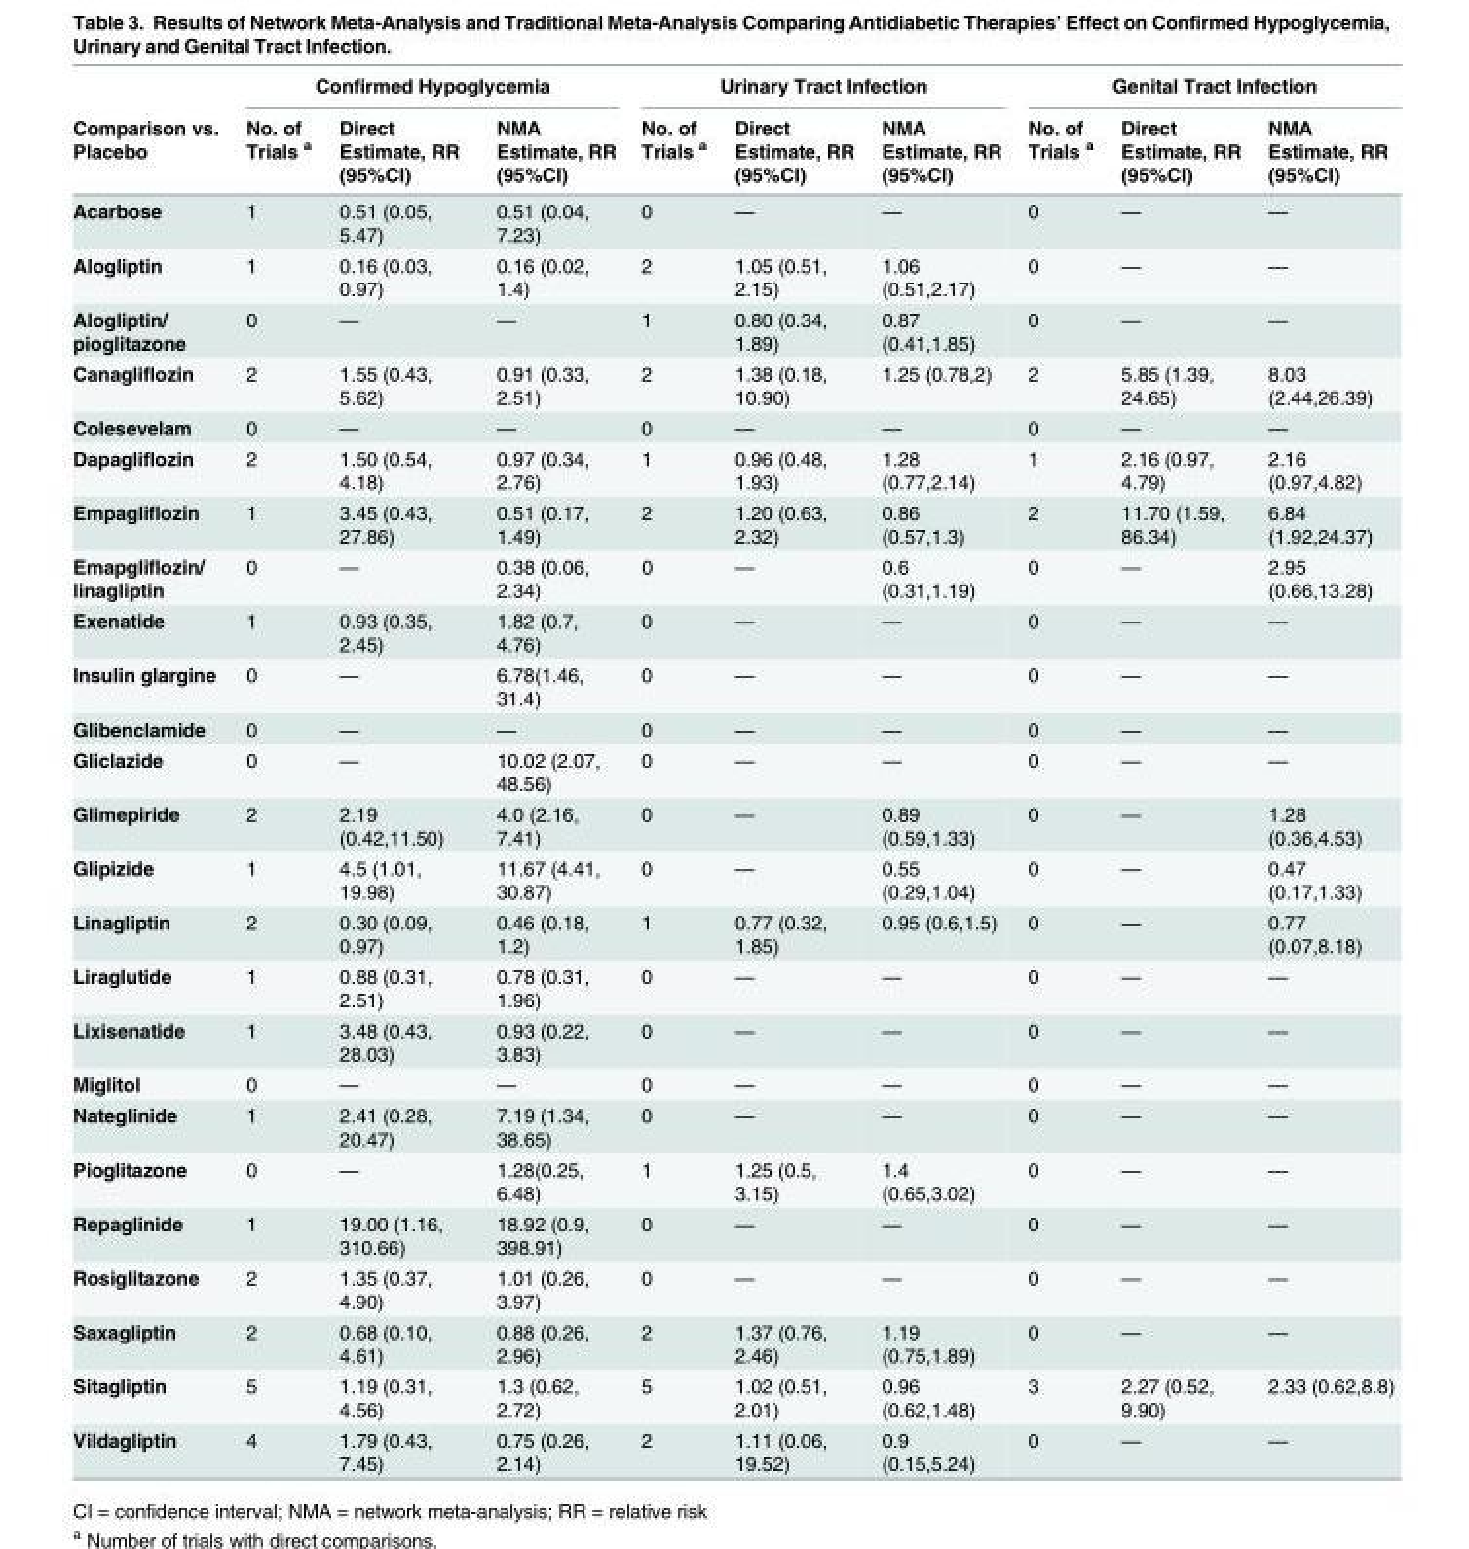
<table><thead><tr><td rowspan="2">Comparison vs. Placebo</td><td colspan="3">Confirmed Hypoglycemia</td><td colspan="3">Urinary Tract Infection</td><td colspan="3">Genital Tract Infection</td></tr><tr><td>No. of Trials <sup>a</sup></td><td>Direct Estimate, RR (95%CI)</td><td>NMA Estimate, RR (95%CI)</td><td>No. of Trials <sup>a</sup></td><td>Direct Estimate, RR (95%CI)</td><td>NMA Estimate, RR (95%CI)</td><td>No. of Trials <sup>a</sup></td><td>Direct Estimate, RR (95%CI)</td><td>NMA Estimate, RR (95%CI)</td></tr></thead><tbody><tr><td>Acarbose</td><td>1</td><td>0.51 (0.05, 5.47)</td><td>0.51 (0.04, 7.23)</td><td>0</td><td>—</td><td>—</td><td>0</td><td>—</td><td>—</td></tr><tr><td>Alogliptin</td><td>1</td><td>0.16 (0.03, 0.97)</td><td>0.16 (0.02, 1.4)</td><td>2</td><td>1.05 (0.51, 2.15)</td><td>1.06 (0.51,2.17)</td><td>0</td><td>—</td><td>—</td></tr><tr><td>Alogliptin/ pioglitazone</td><td>0</td><td>—</td><td>—</td><td>1</td><td>0.80 (0.34, 1.89)</td><td>0.87 (0.41,1.85)</td><td>0</td><td>—</td><td>—</td></tr><tr><td>Canagliflozin</td><td>2</td><td>1.55 (0.43, 5.62)</td><td>0.91 (0.33, 2.51)</td><td>2</td><td>1.38 (0.18, 10.90)</td><td>1.25 (0.78,2)</td><td>2</td><td>5.85 (1.39, 24.65)</td><td>8.03 (2.44,26.39)</td></tr><tr><td>Colesevelam</td><td>0</td><td>—</td><td>—</td><td>0</td><td>—</td><td>—</td><td>0</td><td>—</td><td>—</td></tr><tr><td>Dapagliflozin</td><td>2</td><td>1.50 (0.54, 4.18)</td><td>0.97 (0.34, 2.76)</td><td>1</td><td>0.96 (0.48, 1.93)</td><td>1.28 (0.77,2.14)</td><td>1</td><td>2.16 (0.97, 4.79)</td><td>2.16 (0.97,4.82)</td></tr><tr><td>Empagliflozin</td><td>1</td><td>3.45 (0.43, 27.86)</td><td>0.51 (0.17, 1.49)</td><td>2</td><td>1.20 (0.63, 2.32)</td><td>0.86 (0.57,1.3)</td><td>2</td><td>11.70 (1.59, 86.34)</td><td>6.84 (1.92,24.37)</td></tr><tr><td>Emapgliflozin/ linagliptin</td><td>0</td><td>—</td><td>0.38 (0.06, 2.34)</td><td>0</td><td>—</td><td>0.6 (0.31,1.19)</td><td>0</td><td>—</td><td>2.95 (0.66,13.28)</td></tr><tr><td>Exenatide</td><td>1</td><td>0.93 (0.35, 2.45)</td><td>1.82 (0.7, 4.76)</td><td>0</td><td>—</td><td>—</td><td>0</td><td>—</td><td>—</td></tr><tr><td>Insulin glargine</td><td>0</td><td>—</td><td>6.78(1.46, 31.4)</td><td>0</td><td>—</td><td>—</td><td>0</td><td>—</td><td>—</td></tr><tr><td>Glibenclamide</td><td>0</td><td>—</td><td>—</td><td>0</td><td>—</td><td>—</td><td>0</td><td>—</td><td>—</td></tr><tr><td>Gliclazide</td><td>0</td><td>—</td><td>10.02 (2.07, 48.56)</td><td>0</td><td>—</td><td>—</td><td>0</td><td>—</td><td>—</td></tr><tr><td>Glimepiride</td><td>2</td><td>2.19 (0.42,11.50)</td><td>4.0 (2.16, 7.41)</td><td>0</td><td>—</td><td>0.89 (0.59,1.33)</td><td>0</td><td>—</td><td>1.28 (0.36,4.53)</td></tr><tr><td>Glipizide</td><td>1</td><td>4.5 (1.01, 19.98)</td><td>11.67 (4.41, 30.87)</td><td>0</td><td>—</td><td>0.55 (0.29,1.04)</td><td>0</td><td>—</td><td>0.47 (0.17,1.33)</td></tr><tr><td>Linagliptin</td><td>2</td><td>0.30 (0.09, 0.97)</td><td>0.46 (0.18, 1.2)</td><td>1</td><td>0.77 (0.32, 1.85)</td><td>0.95 (0.6,1.5)</td><td>0</td><td>—</td><td>0.77 (0.07,8.18)</td></tr><tr><td>Liraglutide</td><td>1</td><td>0.88 (0.31, 2.51)</td><td>0.78 (0.31, 1.96)</td><td>0</td><td>—</td><td>—</td><td>0</td><td>—</td><td>—</td></tr><tr><td>Lixisenatide</td><td>1</td><td>3.48 (0.43, 28.03)</td><td>0.93 (0.22, 3.83)</td><td>0</td><td>—</td><td>—</td><td>0</td><td>—</td><td>—</td></tr><tr><td>Miglitol</td><td>0</td><td>—</td><td>—</td><td>0</td><td>—</td><td>—</td><td>0</td><td>—</td><td>—</td></tr><tr><td>Nateglinide</td><td>1</td><td>2.41 (0.28, 20.47)</td><td>7.19 (1.34, 38.65)</td><td>0</td><td>—</td><td>—</td><td>0</td><td>—</td><td>—</td></tr><tr><td>Pioglitazone</td><td>0</td><td>—</td><td>1.28(0.25, 6.48)</td><td>1</td><td>1.25 (0.5, 3.15)</td><td>1.4 (0.65,3.02)</td><td>0</td><td>—</td><td>—</td></tr><tr><td>Repaglinide</td><td>1</td><td>19.00 (1.16, 310.66)</td><td>18.92 (0.9, 398.91)</td><td>0</td><td>—</td><td>—</td><td>0</td><td>—</td><td>—</td></tr><tr><td>Rosiglitazone</td><td>2</td><td>1.35 (0.37, 4.90)</td><td>1.01 (0.26, 3.97)</td><td>0</td><td>—</td><td>—</td><td>0</td><td>—</td><td>—</td></tr><tr><td>Saxagliptin</td><td>2</td><td>0.68 (0.10, 4.61)</td><td>0.88 (0.26, 2.96)</td><td>2</td><td>1.37 (0.76, 2.46)</td><td>1.19 (0.75,1.89)</td><td>0</td><td>—</td><td>—</td></tr><tr><td>Sitagliptin</td><td>5</td><td>1.19 (0.31, 4.56)</td><td>1.3 (0.62, 2.72)</td><td>5</td><td>1.02 (0.51, 2.01)</td><td>0.96 (0.62,1.48)</td><td>3</td><td>2.27 (0.52, 9.90)</td><td>2.33 (0.62,8.8)</td></tr><tr><td>Vildagliptin</td><td>4</td><td>1.79 (0.43, 7.45)</td><td>0.75 (0.26, 2.14)</td><td>2</td><td>1.11 (0.06, 19.52)</td><td>0.9 (0.15,5.24)</td><td>0</td><td>—</td><td>—</td></tr></tbody></table>